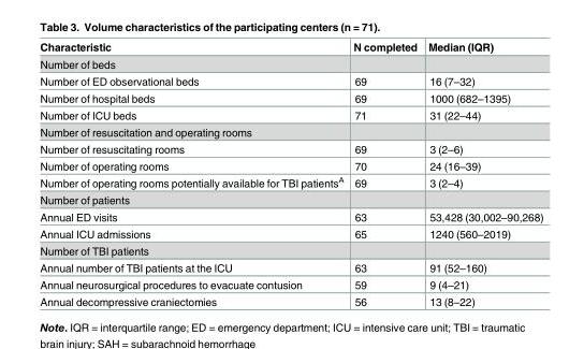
<table><thead><tr><td>Characteristic</td><td>N completed</td><td>Median (IQR)</td></tr></thead><tbody><tr><td colspan="3">Number of beds</td></tr><tr><td>Number of ED observational beds</td><td>69</td><td>16 (7–32)</td></tr><tr><td>Number of hospital beds</td><td>69</td><td>1000 (682–1395)</td></tr><tr><td>Number of ICU beds</td><td>71</td><td>31 (22–44)</td></tr><tr><td colspan="3">Number of resuscitation and operating rooms</td></tr><tr><td>Number of resuscitating rooms</td><td>69</td><td>3 (2–6)</td></tr><tr><td>Number of operating rooms</td><td>70</td><td>24 (16–39)</td></tr><tr><td>Number of operating rooms potentially available for TBI patients<sup>A</sup></td><td>69</td><td>3 (2–4)</td></tr><tr><td colspan="3">Number of patients</td></tr><tr><td>Annual ED visits</td><td>63</td><td>53,428 (30,002–90,268)</td></tr><tr><td>Annual ICU admissions</td><td>65</td><td>1240 (560–2019)</td></tr><tr><td colspan="3">Number of TBI patients</td></tr><tr><td>Annual number of TBI patients at the ICU</td><td>63</td><td>91 (52–160)</td></tr><tr><td>Annual neurosurgical procedures to evacuate contusion</td><td>59</td><td>9 (4–21)</td></tr><tr><td>Annual decompressive craniectomies</td><td>56</td><td>13 (8–22)</td></tr></tbody></table>